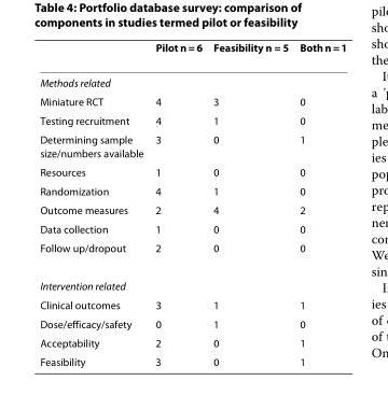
<table><thead><tr><td></td><td>Pilot n = 6</td><td>Feasibility n = 5</td><td>Both n = 1</td></tr></thead><tbody><tr><td colspan="4">Methods related</td></tr><tr><td>Miniature RCT</td><td>4</td><td>3</td><td>0</td></tr><tr><td>Testing recruitment</td><td>4</td><td>1</td><td>0</td></tr><tr><td>Determining sample size/numbers available</td><td>3</td><td>0</td><td>1</td></tr><tr><td>Resources</td><td>1</td><td>0</td><td>0</td></tr><tr><td>Randomization</td><td>4</td><td>1</td><td>0</td></tr><tr><td>Outcome measures</td><td>2</td><td>4</td><td>2</td></tr><tr><td>Data collection</td><td>1</td><td>0</td><td>0</td></tr><tr><td>Follow up/dropout</td><td>2</td><td>0</td><td>0</td></tr><tr><td colspan="4">Intervention related</td></tr><tr><td>Clinical outcomes</td><td>3</td><td>1</td><td>1</td></tr><tr><td>Dose/efficacy/safety</td><td>0</td><td>1</td><td>0</td></tr><tr><td>Acceptability</td><td>2</td><td>0</td><td>1</td></tr><tr><td>Feasibility</td><td>3</td><td>0</td><td>1</td></tr></tbody></table>